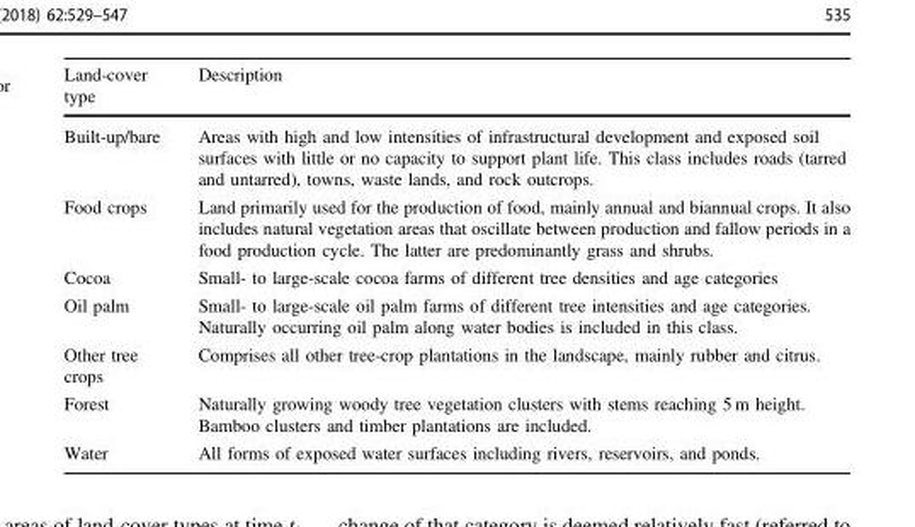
<table><thead><tr><td>Land-cover type</td><td>Description</td></tr></thead><tbody><tr><td>Built-up/bare</td><td>Areas with high and low intensities of infrastructural development and exposed soil surfaces with little or no capacity to support plant life. This class includes roads (tarred and untarred), towns, waste lands, and rock outcrops.</td></tr><tr><td>Food crops</td><td>Land primarily used for the production of food, mainly annual and biannual crops. It also includes natural vegetation areas that oscillate between production and fallow periods in a food production cycle. The latter are predominantly grass and shrubs.</td></tr><tr><td>Cocoa</td><td>Small- to large-scale cocoa farms of different tree densities and age categories</td></tr><tr><td>Oil palm</td><td>Small- to large-scale oil palm farms of different tree intensities and age categories. Naturally occurring oil palm along water bodies is included in this class.</td></tr><tr><td>Other tree crops</td><td>Comprises all other tree-crop plantations in the landscape, mainly rubber and citrus.</td></tr><tr><td>Forest</td><td>Naturally growing woody tree vegetation clusters with stems reaching 5 m height. Bamboo clusters and timber plantations are included.</td></tr><tr><td>Water</td><td>All forms of exposed water surfaces including rivers, reservoirs, and ponds.</td></tr></tbody></table>